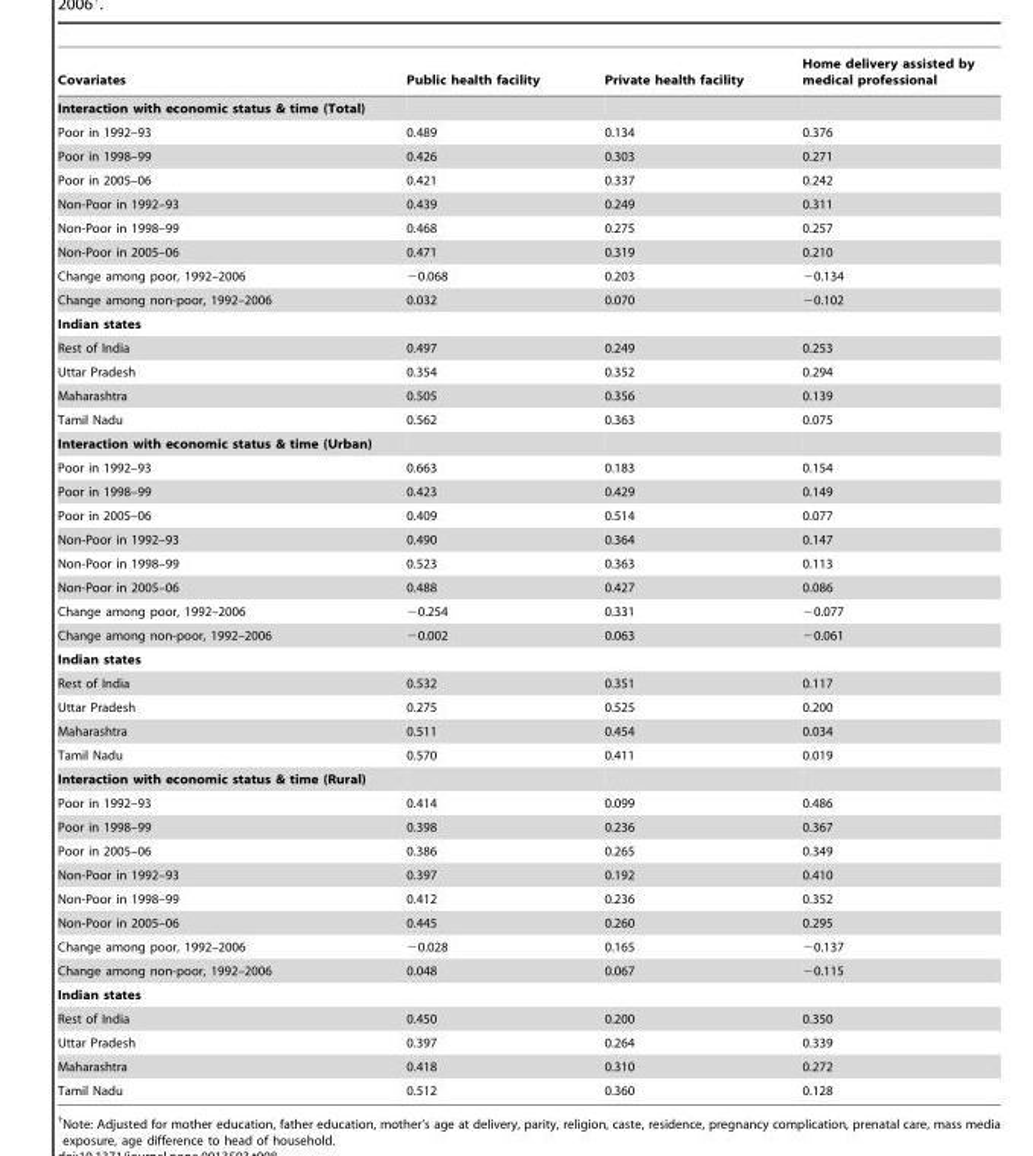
<table><thead><tr><td>Covariates</td><td>Public health facility</td><td>Private health facility</td><td>Home delivery assisted by medical professional</td></tr></thead><tbody><tr><td colspan="4">Interaction with economic status &amp; time (Total)</td></tr><tr><td>Poor in 1992–93</td><td>0.489</td><td>0.134</td><td>0.376</td></tr><tr><td>Poor in 1998–99</td><td>0.426</td><td>0.303</td><td>0.271</td></tr><tr><td>Poor in 2005–06</td><td>0.421</td><td>0.337</td><td>0.242</td></tr><tr><td>Non-Poor in 1992–93</td><td>0.439</td><td>0.249</td><td>0.311</td></tr><tr><td>Non-Poor in 1998–99</td><td>0.468</td><td>0.275</td><td>0.257</td></tr><tr><td>Non-Poor in 2005–06</td><td>0.471</td><td>0.319</td><td>0.210</td></tr><tr><td>Change among poor, 1992–2006</td><td>−0.068</td><td>0.203</td><td>−0.134</td></tr><tr><td>Change among non-poor, 1992–2006</td><td>0.032</td><td>0.070</td><td>−0.102</td></tr><tr><td colspan="4">Indian states</td></tr><tr><td>Rest of India</td><td>0.497</td><td>0.249</td><td>0.253</td></tr><tr><td>Uttar Pradesh</td><td>0.354</td><td>0.352</td><td>0.294</td></tr><tr><td>Maharashtra</td><td>0.505</td><td>0.356</td><td>0.139</td></tr><tr><td>Tamil Nadu</td><td>0.562</td><td>0.363</td><td>0.075</td></tr><tr><td colspan="4">Interaction with economic status &amp; time (Urban)</td></tr><tr><td>Poor in 1992–93</td><td>0.663</td><td>0.183</td><td>0.154</td></tr><tr><td>Poor in 1998–99</td><td>0.423</td><td>0.429</td><td>0.149</td></tr><tr><td>Poor in 2005–06</td><td>0.409</td><td>0.514</td><td>0.077</td></tr><tr><td>Non-Poor in 1992–93</td><td>0.490</td><td>0.364</td><td>0.147</td></tr><tr><td>Non-Poor in 1998–99</td><td>0.523</td><td>0.363</td><td>0.113</td></tr><tr><td>Non-Poor in 2005–06</td><td>0.488</td><td>0.427</td><td>0.086</td></tr><tr><td>Change among poor, 1992–2006</td><td>−0.254</td><td>0.331</td><td>−0.077</td></tr><tr><td>Change among non-poor, 1992–2006</td><td>−0.002</td><td>0.063</td><td>−0.061</td></tr><tr><td colspan="4">Indian states</td></tr><tr><td>Rest of India</td><td>0.532</td><td>0.351</td><td>0.117</td></tr><tr><td>Uttar Pradesh</td><td>0.275</td><td>0.525</td><td>0.200</td></tr><tr><td>Maharashtra</td><td>0.511</td><td>0.454</td><td>0.034</td></tr><tr><td>Tamil Nadu</td><td>0.570</td><td>0.411</td><td>0.019</td></tr><tr><td colspan="4">Interaction with economic status &amp; time (Rural)</td></tr><tr><td>Poor in 1992–93</td><td>0.414</td><td>0.099</td><td>0.486</td></tr><tr><td>Poor in 1998–99</td><td>0.398</td><td>0.236</td><td>0.367</td></tr><tr><td>Poor in 2005–06</td><td>0.386</td><td>0.265</td><td>0.349</td></tr><tr><td>Non-Poor in 1992–93</td><td>0.397</td><td>0.192</td><td>0.410</td></tr><tr><td>Non-Poor in 1998–99</td><td>0.412</td><td>0.236</td><td>0.352</td></tr><tr><td>Non-Poor in 2005–06</td><td>0.445</td><td>0.260</td><td>0.295</td></tr><tr><td>Change among poor, 1992–2006</td><td>−0.028</td><td>0.165</td><td>−0.137</td></tr><tr><td>Change among non-poor, 1992–2006</td><td>0.048</td><td>0.067</td><td>−0.115</td></tr><tr><td colspan="4">Indian states</td></tr><tr><td>Rest of India</td><td>0.450</td><td>0.200</td><td>0.350</td></tr><tr><td>Uttar Pradesh</td><td>0.397</td><td>0.264</td><td>0.339</td></tr><tr><td>Maharashtra</td><td>0.418</td><td>0.310</td><td>0.272</td></tr><tr><td>Tamil Nadu</td><td>0.512</td><td>0.360</td><td>0.128</td></tr></tbody></table>